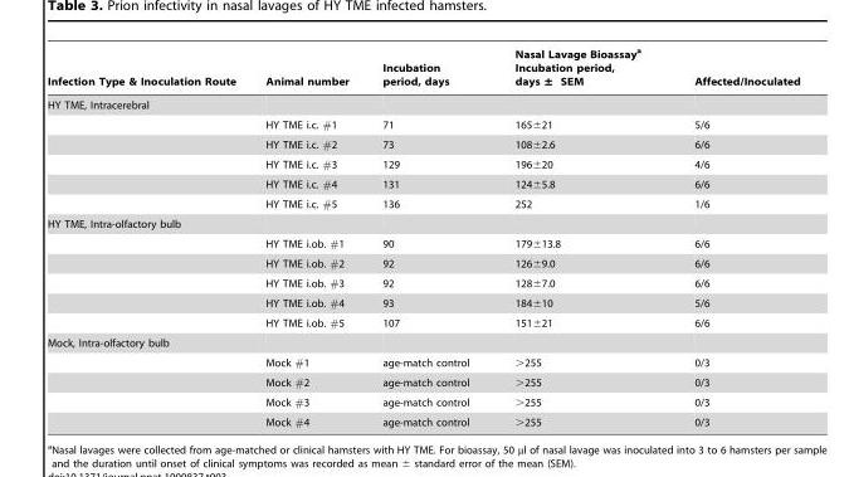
<table><thead><tr><td>Infection Type &amp; Inoculation Route</td><td>Animal number</td><td>Incubation period, days</td><td>Nasal Lavage Bioassay<sup>a</sup> Incubation period, days ± SEM</td><td>Affected/Inoculated</td></tr></thead><tbody><tr><td colspan="5">HY TME, Intracerebral</td></tr><tr><td></td><td>HY TME i.c. #1</td><td>71</td><td>165±21</td><td>5/6</td></tr><tr><td></td><td>HY TME i.c. #2</td><td>73</td><td>108±2.6</td><td>6/6</td></tr><tr><td></td><td>HY TME i.c. #3</td><td>129</td><td>196±20</td><td>4/6</td></tr><tr><td></td><td>HY TME i.c. #4</td><td>131</td><td>124±5.8</td><td>6/6</td></tr><tr><td></td><td>HY TME i.c. #5</td><td>136</td><td>252</td><td>1/6</td></tr><tr><td colspan="5">HY TME, Intra-olfactory bulb</td></tr><tr><td></td><td>HY TME i.ob. #1</td><td>90</td><td>179±13.8</td><td>6/6</td></tr><tr><td></td><td>HY TME i.ob. #2</td><td>92</td><td>126±9.0</td><td>6/6</td></tr><tr><td></td><td>HY TME i.ob. #3</td><td>92</td><td>128±7.0</td><td>6/6</td></tr><tr><td></td><td>HY TME i.ob. #4</td><td>93</td><td>184±10</td><td>5/6</td></tr><tr><td></td><td>HY TME i.ob. #5</td><td>107</td><td>151±21</td><td>6/6</td></tr><tr><td colspan="5">Mock, Intra-olfactory bulb</td></tr><tr><td></td><td>Mock #1</td><td>age-match control</td><td>&gt;255</td><td>0/3</td></tr><tr><td></td><td>Mock #2</td><td>age-match control</td><td>&gt;255</td><td>0/3</td></tr><tr><td></td><td>Mock #3</td><td>age-match control</td><td>&gt;255</td><td>0/3</td></tr><tr><td></td><td>Mock #4</td><td>age-match control</td><td>&gt;255</td><td>0/3</td></tr></tbody></table>